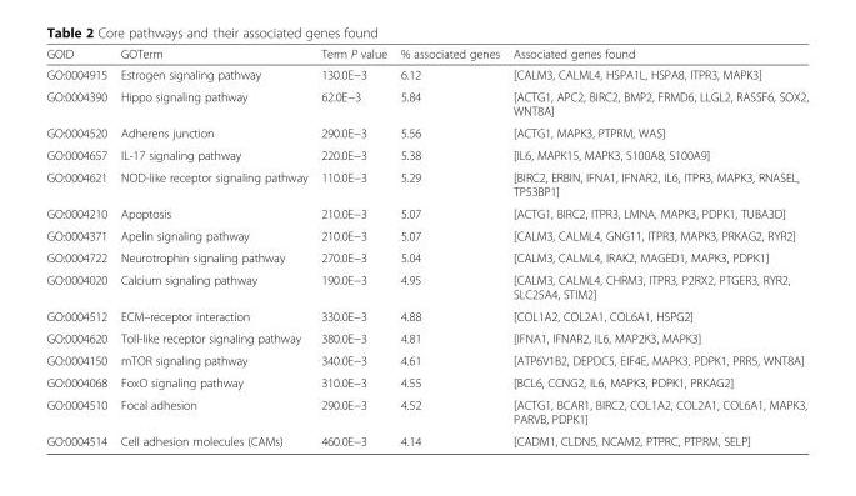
<table><thead><tr><td>GOID</td><td>GOTerm</td><td>Term P value</td><td>% associated genes</td><td>Associated genes found</td></tr></thead><tbody><tr><td>GO:0004915</td><td>Estrogen signaling pathway</td><td>130.0E−3</td><td>6.12</td><td>[CALM3, CALML4, HSPA1L, HSPA8, ITPR3, MAPK3]</td></tr><tr><td>GO:0004390</td><td>Hippo signaling pathway</td><td>62.0E−3</td><td>5.84</td><td>[ACTG1, APC2, BIRC2, BMP2, FRMD6, LLGL2, RASSF6, SOX2, WNT8A]</td></tr><tr><td>GO:0004520</td><td>Adherens junction</td><td>290.0E−3</td><td>5.56</td><td>[ACTG1, MAPK3, PTPRM, WAS]</td></tr><tr><td>GO:0004657</td><td>IL-17 signaling pathway</td><td>220.0E−3</td><td>5.38</td><td>[IL6, MAPK15, MAPK3, S100A8, S100A9]</td></tr><tr><td>GO:0004621</td><td>NOD-like receptor signaling pathway</td><td>110.0E−3</td><td>5.29</td><td>[BIRC2, ERBIN, IFNA1, IFNAR2, IL6, ITPR3, MAPK3, RNASEL, TP53BP1]</td></tr><tr><td>GO:0004210</td><td>Apoptosis</td><td>210.0E−3</td><td>5.07</td><td>[ACTG1, BIRC2, ITPR3, LMNA, MAPK3, PDPK1, TUBA3D]</td></tr><tr><td>GO:0004371</td><td>Apelin signaling pathway</td><td>210.0E−3</td><td>5.07</td><td>[CALM3, CALML4, GNG11, ITPR3, MAPK3, PRKAG2, RYR2]</td></tr><tr><td>GO:0004722</td><td>Neurotrophin signaling pathway</td><td>270.0E−3</td><td>5.04</td><td>[CALM3, CALML4, IRAK2, MAGED1, MAPK3, PDPK1]</td></tr><tr><td>GO:0004020</td><td>Calcium signaling pathway</td><td>190.0E−3</td><td>4.95</td><td>[CALM3, CALML4, CHRM3, ITPR3, P2RX2, PTGER3, RYR2, SLC25A4, STIM2]</td></tr><tr><td>GO:0004512</td><td>ECM–receptor interaction</td><td>330.0E−3</td><td>4.88</td><td>[COL1A2, COL2A1, COL6A1, HSPG2]</td></tr><tr><td>GO:0004620</td><td>Toll-like receptor signaling pathway</td><td>380.0E−3</td><td>4.81</td><td>[IFNA1, IFNAR2, IL6, MAP2K3, MAPK3]</td></tr><tr><td>GO:0004150</td><td>mTOR signaling pathway</td><td>340.0E−3</td><td>4.61</td><td>[ATP6V1B2, DEPDC5, EIF4E, MAPK3, PDPK1, PRR5, WNT8A]</td></tr><tr><td>GO:0004068</td><td>FoxO signaling pathway</td><td>310.0E−3</td><td>4.55</td><td>[BCL6, CCNG2, IL6, MAPK3, PDPK1, PRKAG2]</td></tr><tr><td>GO:0004510</td><td>Focal adhesion</td><td>290.0E−3</td><td>4.52</td><td>[ACTG1, BCAR1, BIRC2, COL1A2, COL2A1, COL6A1, MAPK3, PARVB, PDPK1]</td></tr><tr><td>GO:0004514</td><td>Cell adhesion molecules (CAMs)</td><td>460.0E−3</td><td>4.14</td><td>[CADM1, CLDN5, NCAM2, PTPRC, PTPRM, SELP]</td></tr></tbody></table>